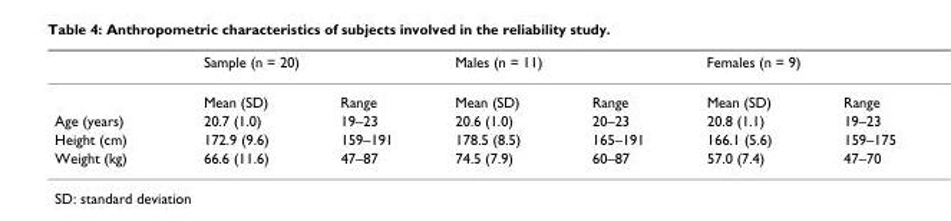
<table><thead><tr><td rowspan="2"></td><td colspan="2">Sample (n = 20)</td><td colspan="2">Males (n = 11)</td><td colspan="2">Females (n = 9)</td></tr><tr><td>Mean (SD)</td><td>Range</td><td>Mean (SD)</td><td>Range</td><td>Mean (SD)</td><td>Range</td></tr></thead><tbody><tr><td>Age (years)</td><td>20.7 (1.0)</td><td>19–23</td><td>20.6 (1.0)</td><td>20–23</td><td>20.8 (1.1)</td><td>19–23</td></tr><tr><td>Height (cm)</td><td>172.9 (9.6)</td><td>159–191</td><td>178.5 (8.5)</td><td>165–191</td><td>166.1 (5.6)</td><td>159–175</td></tr><tr><td>Weight (kg)</td><td>66.6 (11.6)</td><td>47–87</td><td>74.5 (7.9)</td><td>60–87</td><td>57.0 (7.4)</td><td>47–70</td></tr></tbody></table>